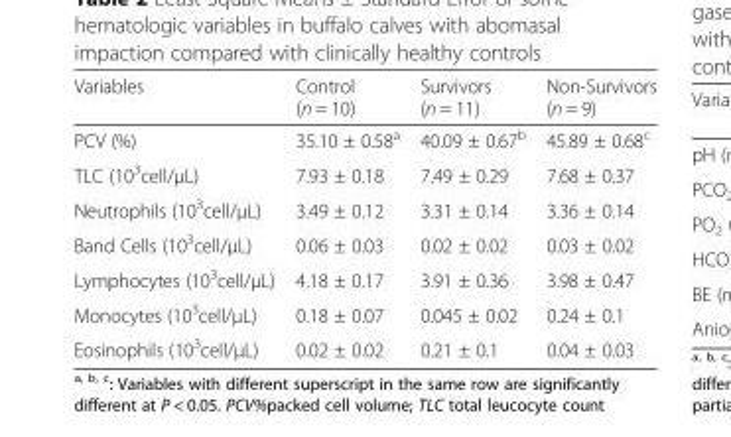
<table><thead><tr><td>Variables</td><td>Control (n = 10)</td><td>Survivors (n = 11)</td><td>Non-Survivors (n = 9)</td></tr></thead><tbody><tr><td>PCV (%)</td><td>35.10 ± 0.58<sup>a</sup></td><td>40.09 ± 0.67<sup>b</sup></td><td>45.89 ± 0.68<sup>c</sup></td></tr><tr><td>TLC (10<sup>3</sup>cell/μL)</td><td>7.93 ± 0.18</td><td>7.49 ± 0.29</td><td>7.68 ± 0.37</td></tr><tr><td>Neutrophils (10<sup>3</sup>cell/μL)</td><td>3.49 ± 0.12</td><td>3.31 ± 0.14</td><td>3.36 ± 0.14</td></tr><tr><td>Band Cells (10<sup>3</sup>cell/μL)</td><td>0.06 ± 0.03</td><td>0.02 ± 0.02</td><td>0.03 ± 0.02</td></tr><tr><td>Lymphocytes (10<sup>3</sup>cell/μL)</td><td>4.18 ± 0.17</td><td>3.91 ± 0.36</td><td>3.98 ± 0.47</td></tr><tr><td>Monocytes (10<sup>3</sup>cell/μL)</td><td>0.18 ± 0.07</td><td>0.045 ± 0.02</td><td>0.24 ± 0.1</td></tr><tr><td>Eosinophils (10<sup>3</sup>cell/μL)</td><td>0.02 ± 0.02</td><td>0.21 ± 0.1</td><td>0.04 ± 0.03</td></tr></tbody></table>